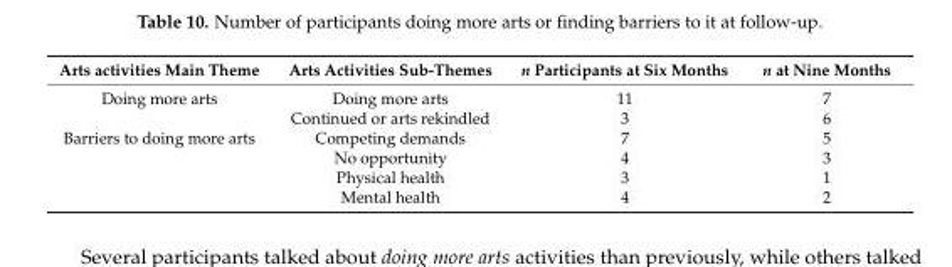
<table><thead><tr><td>Arts activities Main Theme</td><td>Arts Activities Sub-Themes</td><td>n Participants at Six Months</td><td>n at Nine Months</td></tr></thead><tbody><tr><td rowspan="2">Doing more arts</td><td>Doing more arts</td><td>11</td><td>7</td></tr><tr><td>Continued or arts rekindled</td><td>3</td><td>6</td></tr><tr><td rowspan="4">Barriers to doing more arts</td><td>Competing demands</td><td>7</td><td>5</td></tr><tr><td>No opportunity</td><td>4</td><td>3</td></tr><tr><td>Physical health</td><td>3</td><td>1</td></tr><tr><td>Mental health</td><td>4</td><td>2</td></tr></tbody></table>